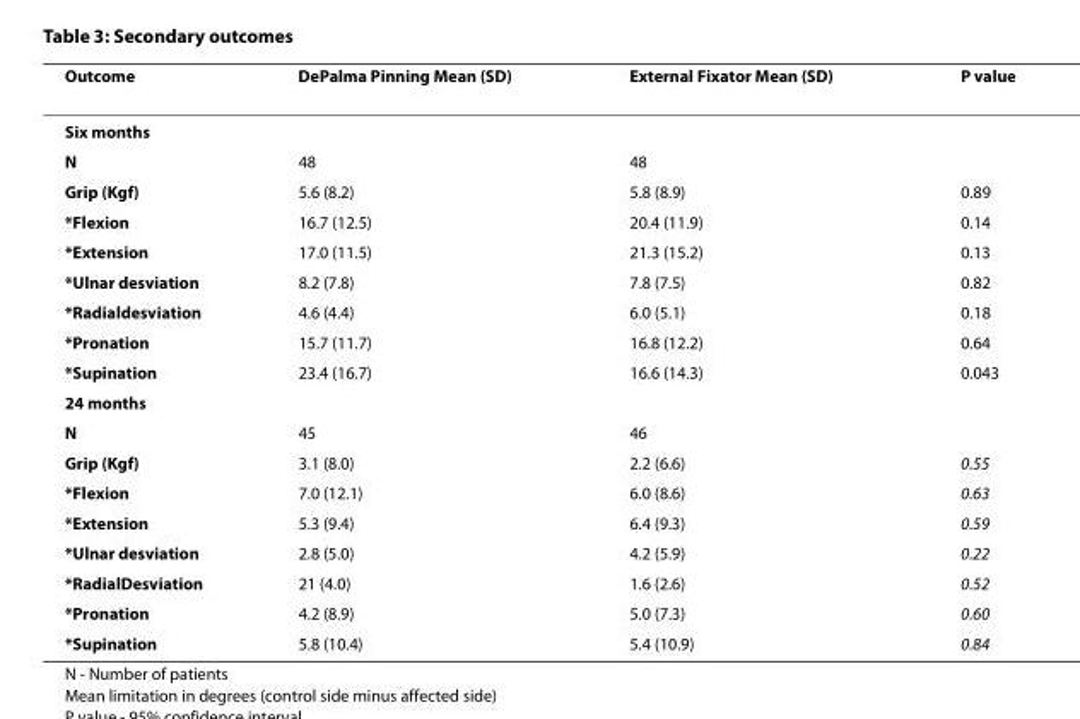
<table><thead><tr><td>Outcome</td><td>DePalma Pinning Mean (SD)</td><td>External Fixator Mean (SD)</td><td>P value</td></tr></thead><tbody><tr><td colspan="4">Six months</td></tr><tr><td>N</td><td>48</td><td>48</td><td></td></tr><tr><td>Grip (Kgf)</td><td>5.6 (8.2)</td><td>5.8 (8.9)</td><td>0.89</td></tr><tr><td>*Flexion</td><td>16.7 (12.5)</td><td>20.4 (11.9)</td><td>0.14</td></tr><tr><td>*Extension</td><td>17.0 (11.5)</td><td>21.3 (15.2)</td><td>0.13</td></tr><tr><td>*Ulnar desviation</td><td>8.2 (7.8)</td><td>7.8 (7.5)</td><td>0.82</td></tr><tr><td>*Radialdesviation</td><td>4.6 (4.4)</td><td>6.0 (5.1)</td><td>0.18</td></tr><tr><td>*Pronation</td><td>15.7 (11.7)</td><td>16.8 (12.2)</td><td>0.64</td></tr><tr><td>*Supination</td><td>23.4 (16.7)</td><td>16.6 (14.3)</td><td>0.043</td></tr><tr><td colspan="4">24 months</td></tr><tr><td>N</td><td>45</td><td>46</td><td></td></tr><tr><td>Grip (Kgf)</td><td>3.1 (8.0)</td><td>2.2 (6.6)</td><td>0.55</td></tr><tr><td>*Flexion</td><td>7.0 (12.1)</td><td>6.0 (8.6)</td><td>0.63</td></tr><tr><td>*Extension</td><td>5.3 (9.4)</td><td>6.4 (9.3)</td><td>0.59</td></tr><tr><td>*Ulnar desviation</td><td>2.8 (5.0)</td><td>4.2 (5.9)</td><td>0.22</td></tr><tr><td>*RadialDesviation</td><td>21 (4.0)</td><td>1.6 (2.6)</td><td>0.52</td></tr><tr><td>*Pronation</td><td>4.2 (8.9)</td><td>5.0 (7.3)</td><td>0.60</td></tr><tr><td>*Supination</td><td>5.8 (10.4)</td><td>5.4 (10.9)</td><td>0.84</td></tr></tbody></table>